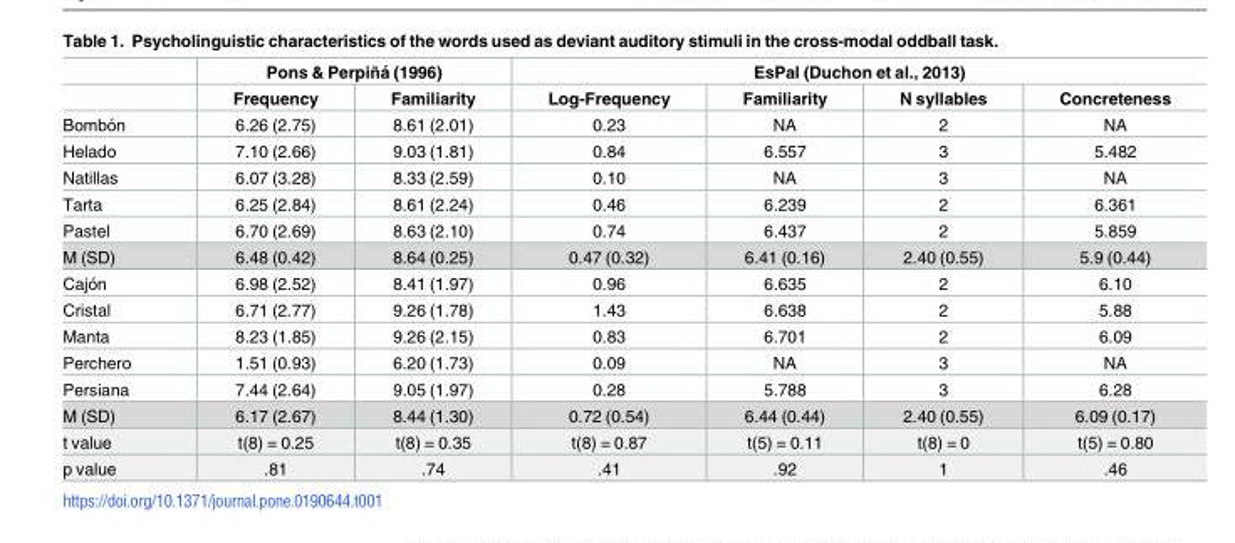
<table><thead><tr><td rowspan="2"></td><td colspan="2">Pons &amp; Perpiña´ (1996)</td><td colspan="4">EsPal (Duchon et al., 2013)</td></tr><tr><td>Frequency</td><td>Familiarity</td><td>Log-Frequency</td><td>Familiarity</td><td>N syllables</td><td>Concreteness</td></tr></thead><tbody><tr><td>Bombo´n</td><td>6.26 (2.75)</td><td>8.61 (2.01)</td><td>0.23</td><td>NA</td><td>2</td><td>NA</td></tr><tr><td>Helado</td><td>7.10 (2.66)</td><td>9.03 (1.81)</td><td>0.84</td><td>6.557</td><td>3</td><td>5.482</td></tr><tr><td>Natillas</td><td>6.07 (3.28)</td><td>8.33 (2.59)</td><td>0.10</td><td>NA</td><td>3</td><td>NA</td></tr><tr><td>Tarta</td><td>6.25 (2.84)</td><td>8.61 (2.24)</td><td>0.46</td><td>6.239</td><td>2</td><td>6.361</td></tr><tr><td>Pastel</td><td>6.70 (2.69)</td><td>8.63 (2.10)</td><td>0.74</td><td>6.437</td><td>2</td><td>5.859</td></tr><tr><td>M (SD)</td><td>6.48 (0.42)</td><td>8.64 (0.25)</td><td>0.47 (0.32)</td><td>6.41 (0.16)</td><td>2.40 (0.55)</td><td>5.9 (0.44)</td></tr><tr><td>Cajo´n</td><td>6.98 (2.52)</td><td>8.41 (1.97)</td><td>0.96</td><td>6.635</td><td>2</td><td>6.10</td></tr><tr><td>Cristal</td><td>6.71 (2.77)</td><td>9.26 (1.78)</td><td>1.43</td><td>6.638</td><td>2</td><td>5.88</td></tr><tr><td>Manta</td><td>8.23 (1.85)</td><td>9.26 (2.15)</td><td>0.83</td><td>6.701</td><td>2</td><td>6.09</td></tr><tr><td>Perchero</td><td>1.51 (0.93)</td><td>6.20 (1.73)</td><td>0.09</td><td>NA</td><td>3</td><td>NA</td></tr><tr><td>Persiana</td><td>7.44 (2.64)</td><td>9.05 (1.97)</td><td>0.28</td><td>5.788</td><td>3</td><td>6.28</td></tr><tr><td>M (SD)</td><td>6.17 (2.67)</td><td>8.44 (1.30)</td><td>0.72 (0.54)</td><td>6.44 (0.44)</td><td>2.40 (0.55)</td><td>6.09 (0.17)</td></tr><tr><td>t value</td><td>t(8) = 0.25</td><td>t(8) = 0.35</td><td>t(8) = 0.87</td><td>t(5) = 0.11</td><td>t(8) = 0</td><td>t(5) = 0.80</td></tr><tr><td>p value</td><td>.81</td><td>.74</td><td>.41</td><td>.92</td><td>1</td><td>.46</td></tr></tbody></table>